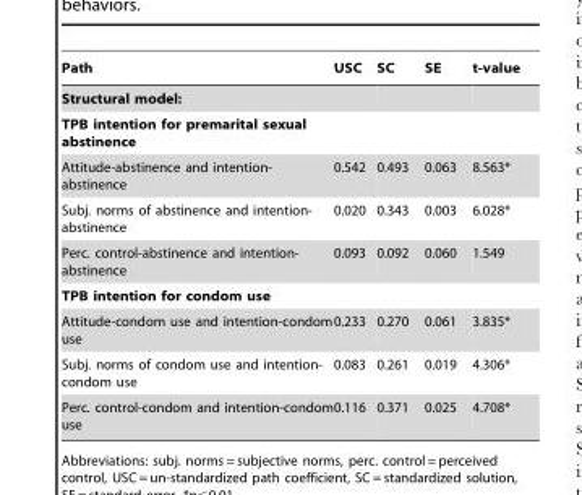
<table><thead><tr><td>Path</td><td>USC</td><td>SC</td><td>SE</td><td>t-value</td></tr></thead><tbody><tr><td colspan="5">Structural model:</td></tr><tr><td colspan="5">TPB intention for premarital sexual abstinence</td></tr><tr><td>Attitude-abstinence and intention- abstinence</td><td>0.542</td><td>0.493</td><td>0.063</td><td>8.563*</td></tr><tr><td>Subj. norms of abstinence and intention- abstinence</td><td>0.020</td><td>0.343</td><td>0.003</td><td>6.028*</td></tr><tr><td>Perc. control-abstinence and intention- abstinence</td><td>0.093</td><td>0.092</td><td>0.060</td><td>1.549</td></tr><tr><td colspan="5">TPB intention for condom use</td></tr><tr><td>Attitude-condom use and intention-condom use</td><td>0.233</td><td>0.270</td><td>0.061</td><td>3.835*</td></tr><tr><td>Subj. norms of condom use and intention- condom use</td><td>0.083</td><td>0.261</td><td>0.019</td><td>4.306*</td></tr><tr><td>Perc. control-condom and intention-condom use</td><td>0.116</td><td>0.371</td><td>0.025</td><td>4.708*</td></tr></tbody></table>